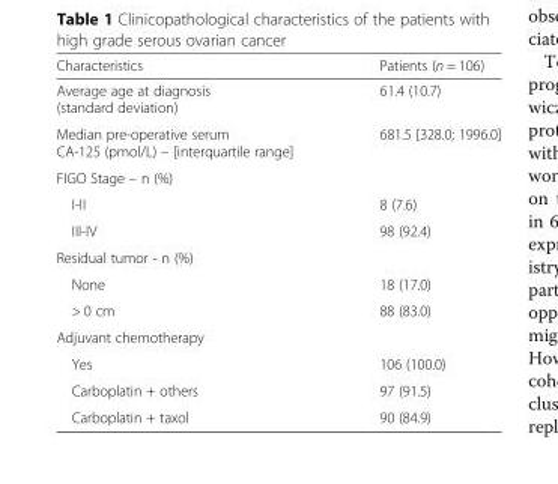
<table><thead><tr><td>Characteristics</td><td>Patients (n = 106)</td></tr></thead><tbody><tr><td>Average age at diagnosis (standard deviation)</td><td>61.4 (10.7)</td></tr><tr><td>Median pre-operative serum CA-125 (pmol/L) – [interquartile range]</td><td>681.5 [328.0; 1996.0]</td></tr><tr><td colspan="2">FIGO Stage – n (%)</td></tr><tr><td>I-II</td><td>8 (7.6)</td></tr><tr><td>III-IV</td><td>98 (92.4)</td></tr><tr><td colspan="2">Residual tumor - n (%)</td></tr><tr><td>None</td><td>18 (17.0)</td></tr><tr><td>&gt; 0 cm</td><td>88 (83.0)</td></tr><tr><td colspan="2">Adjuvant chemotherapy</td></tr><tr><td>Yes</td><td>106 (100.0)</td></tr><tr><td>Carboplatin + others</td><td>97 (91.5)</td></tr><tr><td>Carboplatin + taxol</td><td>90 (84.9)</td></tr></tbody></table>